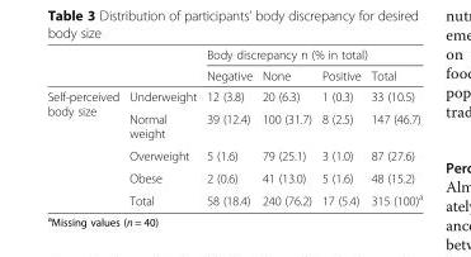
<table><thead><tr><td rowspan="2"></td><td rowspan="2"></td><td colspan="4">Body discrepancy n (% in total)</td></tr><tr><td>Negative</td><td>None</td><td>Positive</td><td>Total</td></tr></thead><tbody><tr><td rowspan="5">Self-perceived body size</td><td>Underweight</td><td>12 (3.8)</td><td>20 (6.3)</td><td>1 (0.3)</td><td>33 (10.5)</td></tr><tr><td>Normal weight</td><td>39 (12.4)</td><td>100 (31.7)</td><td>8 (2.5)</td><td>147 (46.7)</td></tr><tr><td>Overweight</td><td>5 (1.6)</td><td>79 (25.1)</td><td>3 (1.0)</td><td>87 (27.6)</td></tr><tr><td>Obese</td><td>2 (0.6)</td><td>41 (13.0)</td><td>5 (1.6)</td><td>48 (15.2)</td></tr><tr><td>Total</td><td>58 (18.4)</td><td>240 (76.2)</td><td>17 (5.4)</td><td>315 (100)<sup>a</sup></td></tr></tbody></table>